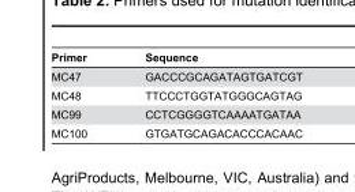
<table><thead><tr><td>Primer</td><td>Sequence</td></tr></thead><tbody><tr><td>MC47</td><td>GACCCGCAGATAGTGATCGT</td></tr><tr><td>MC48</td><td>TTCCCTGGTATGGGCAGTAG</td></tr><tr><td>MC99</td><td>CCTCGGGGTCAAAATGATAA</td></tr><tr><td>MC100</td><td>GTGATGCAGACACCCACAAC</td></tr></tbody></table>